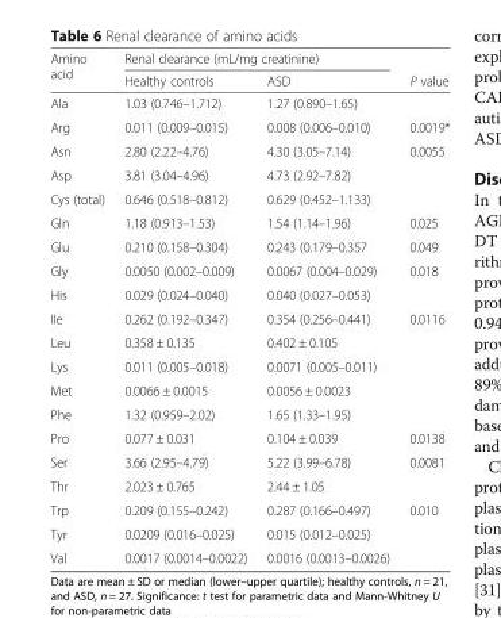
<table><thead><tr><td rowspan="2">Amino acid</td><td colspan="2">Renal clearance (mL/mg creatinine)</td><td rowspan="2">P value</td></tr><tr><td>Healthy controls</td><td>ASD</td></tr></thead><tbody><tr><td>Ala</td><td>1.03 (0.746–1.712)</td><td>1.27 (0.890–1.65)</td><td></td></tr><tr><td>Arg</td><td>0.011 (0.009–0.015)</td><td>0.008 (0.006–0.010)</td><td>0.0019*</td></tr><tr><td>Asn</td><td>2.80 (2.22–4.76)</td><td>4.30 (3.05–7.14)</td><td>0.0055</td></tr><tr><td>Asp</td><td>3.81 (3.04–4.96)</td><td>4.73 (2.92–7.82)</td><td></td></tr><tr><td>Cys (total)</td><td>0.646 (0.518–0.812)</td><td>0.629 (0.452–1.133)</td><td></td></tr><tr><td>Gln</td><td>1.18 (0.913–1.53)</td><td>1.54 (1.14–1.96)</td><td>0.025</td></tr><tr><td>Glu</td><td>0.210 (0.158–0.304)</td><td>0.243 (0.179–0.357</td><td>0.049</td></tr><tr><td>Gly</td><td>0.0050 (0.002–0.009)</td><td>0.0067 (0.004–0.029)</td><td>0.018</td></tr><tr><td>His</td><td>0.029 (0.024–0.040)</td><td>0.040 (0.027–0.053)</td><td></td></tr><tr><td>IIe</td><td>0.262 (0.192–0.347)</td><td>0.354 (0.256–0.441)</td><td>0.0116</td></tr><tr><td>Leu</td><td>0.358 ± 0.135</td><td>0.402 ± 0.105</td><td></td></tr><tr><td>Lys</td><td>0.011 (0.005–0.018)</td><td>0.0071 (0.005–0.011)</td><td></td></tr><tr><td>Met</td><td>0.0066 ± 0.0015</td><td>0.0056 ± 0.0023</td><td></td></tr><tr><td>Phe</td><td>1.32 (0.959–2.02)</td><td>1.65 (1.33–1.95)</td><td></td></tr><tr><td>Pro</td><td>0.077 ± 0.031</td><td>0.104 ± 0.039</td><td>0.0138</td></tr><tr><td>Ser</td><td>3.66 (2.95–4.79)</td><td>5.22 (3.99–6.78)</td><td>0.0081</td></tr><tr><td>Thr</td><td>2.023 ± 0.765</td><td>2.44 ± 1.05</td><td></td></tr><tr><td>Trp</td><td>0.209 (0.155–0.242)</td><td>0.287 (0.166–0.497)</td><td>0.010</td></tr><tr><td>Tyr</td><td>0.0209 (0.016–0.025)</td><td>0.015 (0.012–0.025)</td><td></td></tr><tr><td>Val</td><td>0.0017 (0.0014–0.0022)</td><td>0.0016 (0.0013–0.0026)</td><td></td></tr></tbody></table>